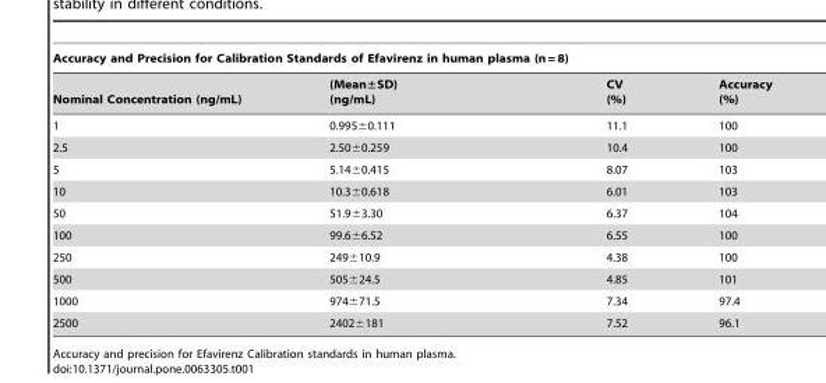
<table><thead><tr><td colspan="4">Accuracy and Precision for Calibration Standards of Efavirenz in human plasma (n = 8)</td></tr><tr><td>Nominal Concentration (ng/mL)</td><td>(Mean±SD) (ng/mL)</td><td>CV (%)</td><td>Accuracy (%)</td></tr></thead><tbody><tr><td>1</td><td>0.995±0.111</td><td>11.1</td><td>100</td></tr><tr><td>2.5</td><td>2.50±0.259</td><td>10.4</td><td>100</td></tr><tr><td>5</td><td>5.14±0.415</td><td>8.07</td><td>103</td></tr><tr><td>10</td><td>10.3±0.618</td><td>6.01</td><td>103</td></tr><tr><td>50</td><td>51.9±3.30</td><td>6.37</td><td>104</td></tr><tr><td>100</td><td>99.6±6.52</td><td>6.55</td><td>100</td></tr><tr><td>250</td><td>249±10.9</td><td>4.38</td><td>100</td></tr><tr><td>500</td><td>505±24.5</td><td>4.85</td><td>101</td></tr><tr><td>1000</td><td>974±71.5</td><td>7.34</td><td>97.4</td></tr><tr><td>2500</td><td>2402±181</td><td>7.52</td><td>96.1</td></tr></tbody></table>